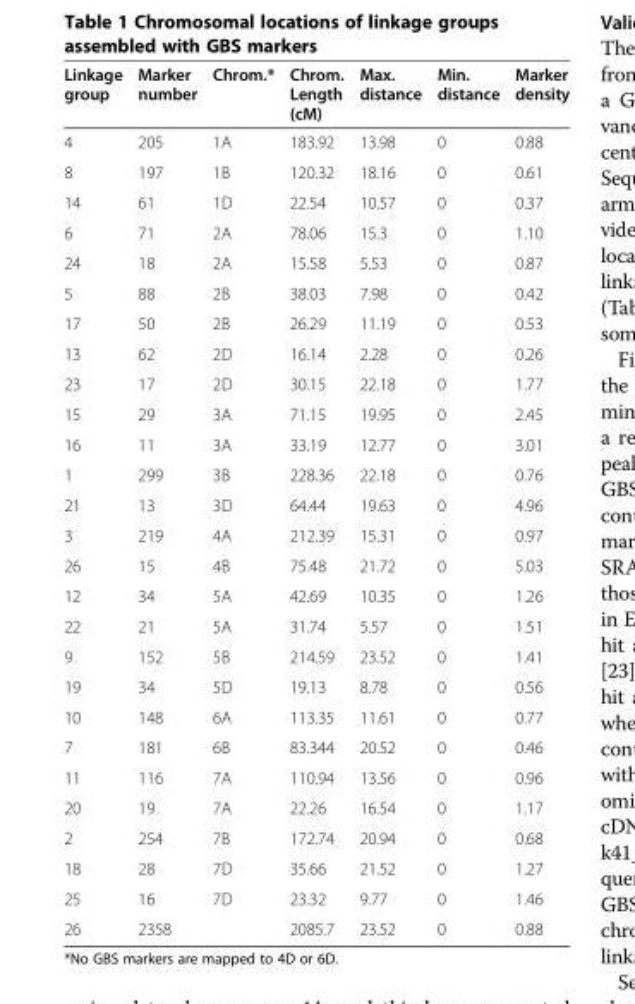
<table><thead><tr><td>Linkage group</td><td>Marker number</td><td>Chrom.*</td><td>Chrom. Length (cM)</td><td>Max. distance</td><td>Min. distance</td><td>Marker density</td></tr></thead><tbody><tr><td>4</td><td>205</td><td>1A</td><td>183.92</td><td>13.98</td><td>0</td><td>0.88</td></tr><tr><td>8</td><td>197</td><td>1B</td><td>120.32</td><td>18.16</td><td>0</td><td>0.61</td></tr><tr><td>14</td><td>61</td><td>1D</td><td>22.54</td><td>10.57</td><td>0</td><td>0.37</td></tr><tr><td>6</td><td>71</td><td>2A</td><td>78.06</td><td>15.3</td><td>0</td><td>1.10</td></tr><tr><td>24</td><td>18</td><td>2A</td><td>15.58</td><td>5.53</td><td>0</td><td>0.87</td></tr><tr><td>5</td><td>88</td><td>2B</td><td>38.03</td><td>7.98</td><td>0</td><td>0.42</td></tr><tr><td>17</td><td>50</td><td>2B</td><td>26.29</td><td>11.19</td><td>0</td><td>0.53</td></tr><tr><td>13</td><td>62</td><td>2D</td><td>16.14</td><td>2.28</td><td>0</td><td>0.26</td></tr><tr><td>23</td><td>17</td><td>2D</td><td>30.15</td><td>22.18</td><td>0</td><td>1.77</td></tr><tr><td>15</td><td>29</td><td>3A</td><td>71.15</td><td>19.95</td><td>0</td><td>2.45</td></tr><tr><td>16</td><td>11</td><td>3A</td><td>33.19</td><td>12.77</td><td>0</td><td>3.01</td></tr><tr><td>1</td><td>299</td><td>3B</td><td>228.36</td><td>22.18</td><td>0</td><td>0.76</td></tr><tr><td>21</td><td>13</td><td>3D</td><td>64.44</td><td>19.63</td><td>0</td><td>4.96</td></tr><tr><td>3</td><td>219</td><td>4A</td><td>212.39</td><td>15.31</td><td>0</td><td>0.97</td></tr><tr><td>26</td><td>15</td><td>4B</td><td>75.48</td><td>21.72</td><td>0</td><td>5.03</td></tr><tr><td>12</td><td>34</td><td>5A</td><td>42.69</td><td>10.35</td><td>0</td><td>1.26</td></tr><tr><td>22</td><td>21</td><td>5A</td><td>31.74</td><td>5.57</td><td>0</td><td>1.51</td></tr><tr><td>9</td><td>152</td><td>5B</td><td>214.59</td><td>23.52</td><td>0</td><td>1.41</td></tr><tr><td>19</td><td>34</td><td>5D</td><td>19.13</td><td>8.78</td><td>0</td><td>0.56</td></tr><tr><td>10</td><td>148</td><td>6A</td><td>113.35</td><td>11.61</td><td>0</td><td>0.77</td></tr><tr><td>7</td><td>181</td><td>6B</td><td>83.344</td><td>20.52</td><td>0</td><td>0.46</td></tr><tr><td>11</td><td>116</td><td>7A</td><td>110.94</td><td>13.56</td><td>0</td><td>0.96</td></tr><tr><td>20</td><td>19</td><td>7A</td><td>22.26</td><td>16.54</td><td>0</td><td>1.17</td></tr><tr><td>2</td><td>254</td><td>7B</td><td>172.74</td><td>20.94</td><td>0</td><td>0.68</td></tr><tr><td>18</td><td>28</td><td>7D</td><td>35.66</td><td>21.52</td><td>0</td><td>1.27</td></tr><tr><td>25</td><td>16</td><td>7D</td><td>23.32</td><td>9.77</td><td>0</td><td>1.46</td></tr><tr><td>26</td><td>2358</td><td></td><td>2085.7</td><td>23.52</td><td>0</td><td>0.88</td></tr></tbody></table>